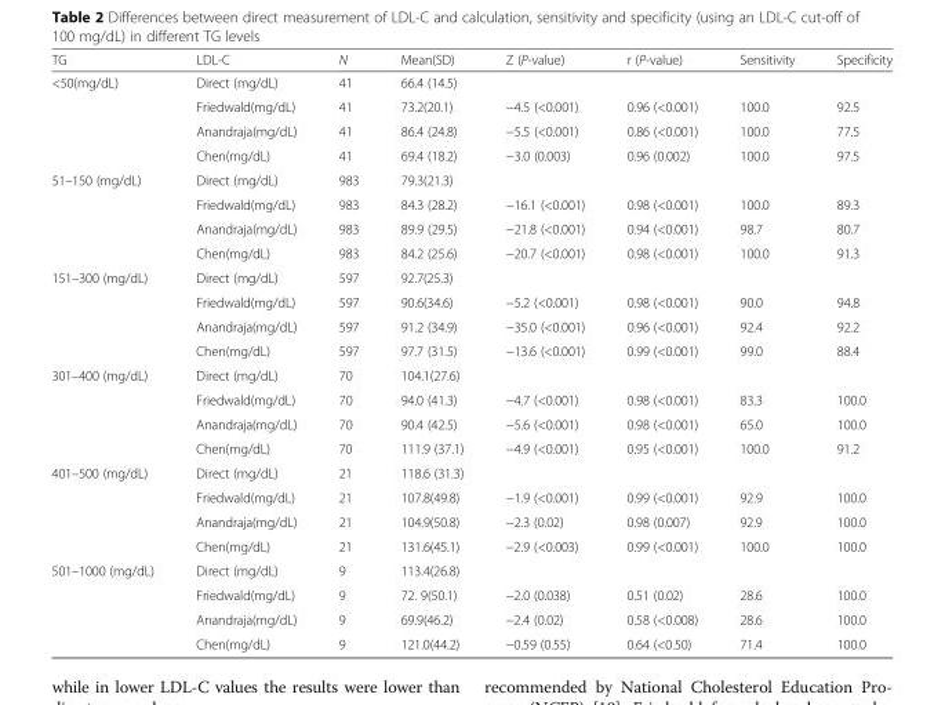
<table><thead><tr><td>TG</td><td>LDL-C</td><td>N</td><td>Mean(SD)</td><td>Z (P-value)</td><td>r (P-value)</td><td>Sensitivity</td><td>Specificity</td></tr></thead><tbody><tr><td rowspan="4">&lt;50(mg/dL)</td><td>Direct (mg/dL)</td><td>41</td><td>66.4 (14.5)</td><td></td><td></td><td></td><td></td></tr><tr><td>Friedwald(mg/dL)</td><td>41</td><td>73.2(20.1)</td><td>−4.5 (&lt;0.001)</td><td>0.96 (&lt;0.001)</td><td>100.0</td><td>92.5</td></tr><tr><td>Anandraja(mg/dL)</td><td>41</td><td>86.4 (24.8)</td><td>−5.5 (&lt;0.001)</td><td>0.86 (&lt;0.001)</td><td>100.0</td><td>77.5</td></tr><tr><td>Chen(mg/dL)</td><td>41</td><td>69.4 (18.2)</td><td>−3.0 (0.003)</td><td>0.96 (0.002)</td><td>100.0</td><td>97.5</td></tr><tr><td rowspan="4">51–150 (mg/dL)</td><td>Direct (mg/dL)</td><td>983</td><td>79.3(21.3)</td><td></td><td></td><td></td><td></td></tr><tr><td>Friedwald(mg/dL)</td><td>983</td><td>84.3 (28.2)</td><td>−16.1 (&lt;0.001)</td><td>0.98 (&lt;0.001)</td><td>100.0</td><td>89.3</td></tr><tr><td>Anandraja(mg/dL)</td><td>983</td><td>89.9 (29.5)</td><td>−21.8 (&lt;0.001)</td><td>0.94 (&lt;0.001)</td><td>98.7</td><td>80.7</td></tr><tr><td>Chen(mg/dL)</td><td>983</td><td>84.2 (25.6)</td><td>−20.7 (&lt;0.001)</td><td>0.98 (&lt;0.001)</td><td>100.0</td><td>91.3</td></tr><tr><td rowspan="4">151–300 (mg/dL)</td><td>Direct (mg/dL)</td><td>597</td><td>92.7(25.3)</td><td></td><td></td><td></td><td></td></tr><tr><td>Friedwald(mg/dL)</td><td>597</td><td>90.6(34.6)</td><td>−5.2 (&lt;0.001)</td><td>0.98 (&lt;0.001)</td><td>90.0</td><td>94.8</td></tr><tr><td>Anandraja(mg/dL)</td><td>597</td><td>91.2 (34.9)</td><td>−35.0 (&lt;0.001)</td><td>0.96 (&lt;0.001)</td><td>92.4</td><td>92.2</td></tr><tr><td>Chen(mg/dL)</td><td>597</td><td>97.7 (31.5)</td><td>−13.6 (&lt;0.001)</td><td>0.99 (&lt;0.001)</td><td>99.0</td><td>88.4</td></tr><tr><td rowspan="4">301–400 (mg/dL)</td><td>Direct (mg/dL)</td><td>70</td><td>104.1(27.6)</td><td></td><td></td><td></td><td></td></tr><tr><td>Friedwald(mg/dL)</td><td>70</td><td>94.0 (41.3)</td><td>−4.7 (&lt;0.001)</td><td>0.98 (&lt;0.001)</td><td>83.3</td><td>100.0</td></tr><tr><td>Anandraja(mg/dL)</td><td>70</td><td>90.4 (42.5)</td><td>−5.6 (&lt;0.001)</td><td>0.98 (&lt;0.001)</td><td>65.0</td><td>100.0</td></tr><tr><td>Chen(mg/dL)</td><td>70</td><td>111.9 (37.1)</td><td>−4.9 (&lt;0.001)</td><td>0.95 (&lt;0.001)</td><td>100.0</td><td>91.2</td></tr><tr><td rowspan="4">401–500 (mg/dL)</td><td>Direct (mg/dL)</td><td>21</td><td>118.6 (31.3)</td><td></td><td></td><td></td><td></td></tr><tr><td>Friedwald(mg/dL)</td><td>21</td><td>107.8(49.8)</td><td>−1.9 (&lt;0.001)</td><td>0.99 (&lt;0.001)</td><td>92.9</td><td>100.0</td></tr><tr><td>Anandraja(mg/dL)</td><td>21</td><td>104.9(50.8)</td><td>−2.3 (0.02)</td><td>0.98 (0.007)</td><td>92.9</td><td>100.0</td></tr><tr><td>Chen(mg/dL)</td><td>21</td><td>131.6(45.1)</td><td>−2.9 (&lt;0.003)</td><td>0.99 (&lt;0.001)</td><td>100.0</td><td>100.0</td></tr><tr><td rowspan="4">501–1000 (mg/dL)</td><td>Direct (mg/dL)</td><td>9</td><td>113.4(26.8)</td><td></td><td></td><td></td><td></td></tr><tr><td>Friedwald(mg/dL)</td><td>9</td><td>72. 9(50.1)</td><td>−2.0 (0.038)</td><td>0.51 (0.02)</td><td>28.6</td><td>100.0</td></tr><tr><td>Anandraja(mg/dL)</td><td>9</td><td>69.9(46.2)</td><td>−2.4 (0.02)</td><td>0.58 (&lt;0.008)</td><td>28.6</td><td>100.0</td></tr><tr><td>Chen(mg/dL)</td><td>9</td><td>121.0(44.2)</td><td>−0.59 (0.55)</td><td>0.64 (&lt;0.50)</td><td>71.4</td><td>100.0</td></tr></tbody></table>